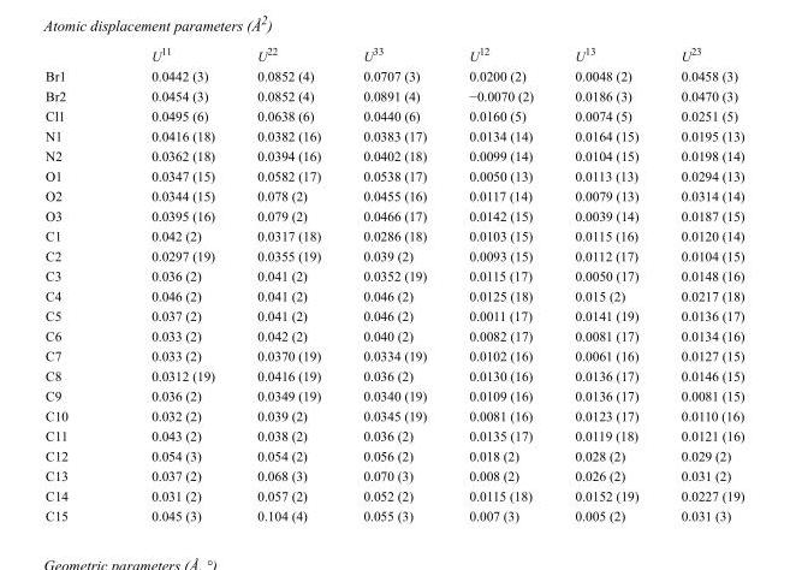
<table><thead><tr><td></td><td>U<sup>11</sup></td><td>U<sup>22</sup></td><td>U<sup>33</sup></td><td>U<sup>12</sup></td><td>U<sup>13</sup></td><td>U<sup>23</sup></td></tr></thead><tbody><tr><td>Br1</td><td>0.0442 (3)</td><td>0.0852 (4)</td><td>0.0707 (3)</td><td>0.0200 (2)</td><td>0.0048 (2)</td><td>0.0458 (3)</td></tr><tr><td>Br2</td><td>0.0454 (3)</td><td>0.0852 (4)</td><td>0.0891 (4)</td><td>−0.0070 (2)</td><td>0.0186 (3)</td><td>0.0470 (3)</td></tr><tr><td>Cl1</td><td>0.0495 (6)</td><td>0.0638 (6)</td><td>0.0440 (6)</td><td>0.0160 (5)</td><td>0.0074 (5)</td><td>0.0251 (5)</td></tr><tr><td>N1</td><td>0.0416 (18)</td><td>0.0382 (16)</td><td>0.0383 (17)</td><td>0.0134 (14)</td><td>0.0164 (15)</td><td>0.0195 (13)</td></tr><tr><td>N2</td><td>0.0362 (18)</td><td>0.0394 (16)</td><td>0.0402 (18)</td><td>0.0099 (14)</td><td>0.0104 (15)</td><td>0.0198 (14)</td></tr><tr><td>O1</td><td>0.0347 (15)</td><td>0.0582 (17)</td><td>0.0538 (17)</td><td>0.0050 (13)</td><td>0.0113 (13)</td><td>0.0294 (13)</td></tr><tr><td>O2</td><td>0.0344 (15)</td><td>0.078 (2)</td><td>0.0455 (16)</td><td>0.0117 (14)</td><td>0.0079 (13)</td><td>0.0314 (14)</td></tr><tr><td>O3</td><td>0.0395 (16)</td><td>0.079 (2)</td><td>0.0466 (17)</td><td>0.0142 (15)</td><td>0.0039 (14)</td><td>0.0187 (15)</td></tr><tr><td>C1</td><td>0.042 (2)</td><td>0.0317 (18)</td><td>0.0286 (18)</td><td>0.0103 (15)</td><td>0.0115 (16)</td><td>0.0120 (14)</td></tr><tr><td>C2</td><td>0.0297 (19)</td><td>0.0355 (19)</td><td>0.039 (2)</td><td>0.0093 (15)</td><td>0.0112 (17)</td><td>0.0104 (15)</td></tr><tr><td>C3</td><td>0.036 (2)</td><td>0.041 (2)</td><td>0.0352 (19)</td><td>0.0115 (17)</td><td>0.0050 (17)</td><td>0.0148 (16)</td></tr><tr><td>C4</td><td>0.046 (2)</td><td>0.041 (2)</td><td>0.046 (2)</td><td>0.0125 (18)</td><td>0.015 (2)</td><td>0.0217 (18)</td></tr><tr><td>C5</td><td>0.037 (2)</td><td>0.041 (2)</td><td>0.046 (2)</td><td>0.0011 (17)</td><td>0.0141 (19)</td><td>0.0136 (17)</td></tr><tr><td>C6</td><td>0.033 (2)</td><td>0.042 (2)</td><td>0.040 (2)</td><td>0.0082 (17)</td><td>0.0081 (17)</td><td>0.0134 (16)</td></tr><tr><td>C7</td><td>0.033 (2)</td><td>0.0370 (19)</td><td>0.0334 (19)</td><td>0.0102 (16)</td><td>0.0061 (16)</td><td>0.0127 (15)</td></tr><tr><td>C8</td><td>0.0312 (19)</td><td>0.0416 (19)</td><td>0.036 (2)</td><td>0.0130 (16)</td><td>0.0136 (17)</td><td>0.0146 (15)</td></tr><tr><td>C9</td><td>0.036 (2)</td><td>0.0349 (19)</td><td>0.0340 (19)</td><td>0.0109 (16)</td><td>0.0136 (17)</td><td>0.0081 (15)</td></tr><tr><td>C10</td><td>0.032 (2)</td><td>0.039 (2)</td><td>0.0345 (19)</td><td>0.0081 (16)</td><td>0.0123 (17)</td><td>0.0110 (16)</td></tr><tr><td>C11</td><td>0.043 (2)</td><td>0.038 (2)</td><td>0.036 (2)</td><td>0.0135 (17)</td><td>0.0119 (18)</td><td>0.0121 (16)</td></tr><tr><td>C12</td><td>0.054 (3)</td><td>0.054 (2)</td><td>0.056 (2)</td><td>0.018 (2)</td><td>0.028 (2)</td><td>0.029 (2)</td></tr><tr><td>C13</td><td>0.037 (2)</td><td>0.068 (3)</td><td>0.070 (3)</td><td>0.008 (2)</td><td>0.026 (2)</td><td>0.031 (2)</td></tr><tr><td>C14</td><td>0.031 (2)</td><td>0.057 (2)</td><td>0.052 (2)</td><td>0.0115 (18)</td><td>0.0152 (19)</td><td>0.0227 (19)</td></tr><tr><td>C15</td><td>0.045 (3)</td><td>0.104 (4)</td><td>0.055 (3)</td><td>0.007 (3)</td><td>0.005 (2)</td><td>0.031 (3)</td></tr></tbody></table>